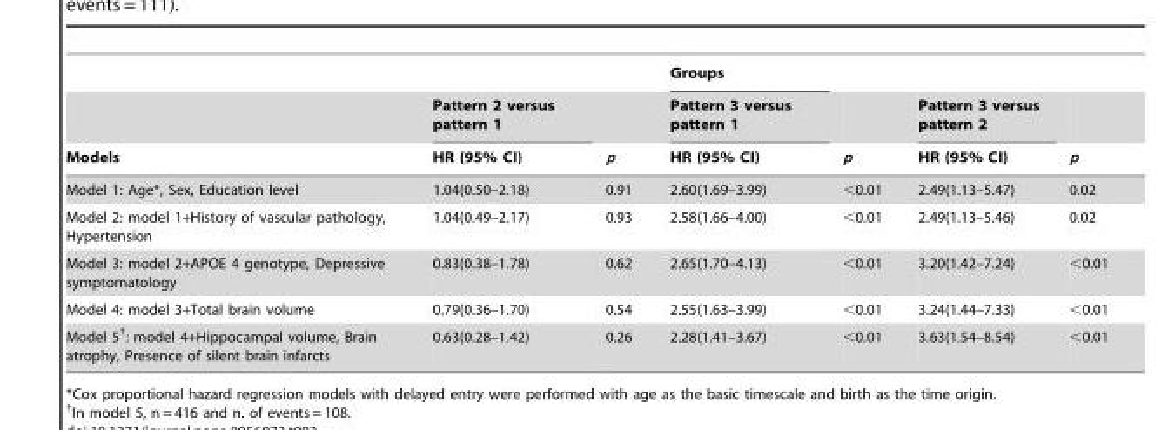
<table><thead><tr><td rowspan="3">Models</td><td rowspan="3">Pattern 2 versus pattern 1 HR (95% CI)</td><td rowspan="3">p</td><td rowspan="3">Groups Pattern 3 versus pattern 1 HR (95% CI)</td><td rowspan="3">p</td><td rowspan="3">Pattern 3 versus pattern 2 HR (95% CI)</td><td rowspan="3">p</td></tr><tr></tr><tr></tr></thead><tbody><tr><td>Model 1: Age*, Sex, Education level</td><td>1.04(0.50–2.18)</td><td>0.91</td><td>2.60(1.69–3.99)</td><td>&lt;0.01</td><td>2.49(1.13–5.47)</td><td>0.02</td></tr><tr><td>Model 2: model 1+History of vascular pathology, Hypertension</td><td>1.04(0.49–2.17)</td><td>0.93</td><td>2.58(1.66–4.00)</td><td>&lt;0.01</td><td>2.49(1.13–5.46)</td><td>0.02</td></tr><tr><td>Model 3: model 2+APOE 4 genotype, Depressive symptomatology</td><td>0.83(0.38–1.78)</td><td>0.62</td><td>2.65(1.70–4.13)</td><td>&lt;0.01</td><td>3.20(1.42–7.24)</td><td>&lt;0.01</td></tr><tr><td>Model 4: model 3+Total brain volume</td><td>0.79(0.36–1.70)</td><td>0.54</td><td>2.55(1.63–3.99)</td><td>&lt;0.01</td><td>3.24(1.44–7.33)</td><td>&lt;0.01</td></tr><tr><td>Model 5†: model 4+Hippocampal volume, Brain atrophy, Presence of silent brain infarcts</td><td>0.63(0.28–1.42)</td><td>0.26</td><td>2.28(1.41–3.67)</td><td>&lt;0.01</td><td>3.63(1.54–8.54)</td><td>&lt;0.01</td></tr></tbody></table>